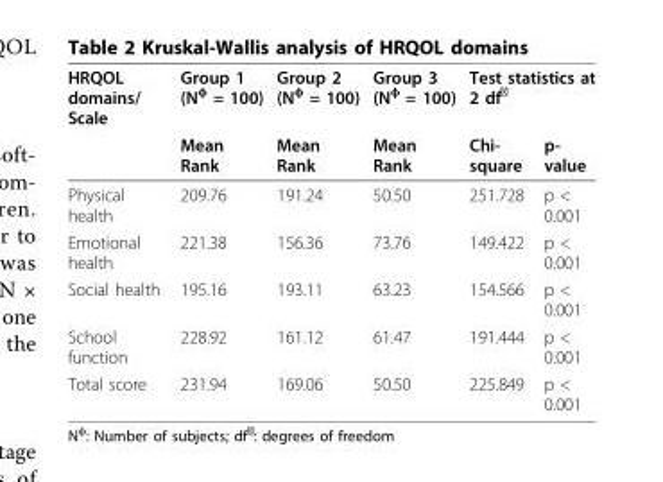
<table><thead><tr><td rowspan="2">HRQOL domains/ Scale</td><td rowspan="2">Group 1 (N<sup>ф</sup> = 100) Mean Rank</td><td rowspan="2">Group 2 (N<sup>ф</sup> = 100) Mean Rank</td><td rowspan="2">Group 3 (N<sup>ф</sup> = 100) Mean Rank</td><td colspan="2">Test statistics at 2 df<sup>ג</sup></td></tr><tr><td>Chi- square</td><td>p- value</td></tr></thead><tbody><tr><td>Physical health</td><td>209.76</td><td>191.24</td><td>50.50</td><td>251.728</td><td>p &lt; 0.001</td></tr><tr><td>Emotional health</td><td>221.38</td><td>156.36</td><td>73.76</td><td>149.422</td><td>p &lt; 0.001</td></tr><tr><td>Social health</td><td>195.16</td><td>193.11</td><td>63.23</td><td>154.566</td><td>p &lt; 0.001</td></tr><tr><td>School function</td><td>228.92</td><td>161.12</td><td>61.47</td><td>191.444</td><td>p &lt; 0.001</td></tr><tr><td>Total score</td><td>231.94</td><td>169.06</td><td>50.50</td><td>225.849</td><td>p &lt; 0.001</td></tr></tbody></table>